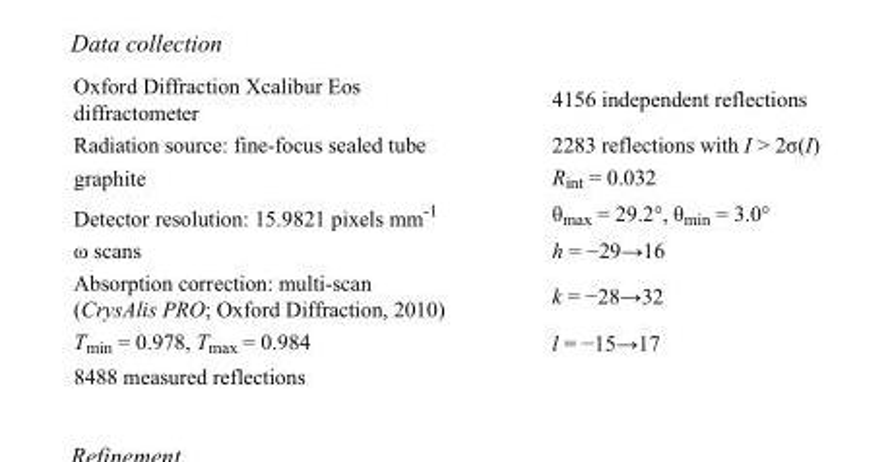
<table><tbody><tr><td>Oxford Diffraction Xcalibur Eos diffractometer</td><td>4156 independent reflections</td></tr><tr><td>Radiation source: fine-focus sealed tube</td><td>2283 reflections with I &gt; 2σ(I)</td></tr><tr><td>graphite</td><td>R<sub>int</sub> = 0.032</td></tr><tr><td>Detector resolution: 15.9821 pixels mm<sup>-1</sup></td><td>θ<sub>max</sub> = 29.2°, θ<sub>min</sub> = 3.0°</td></tr><tr><td>ω scans</td><td>h = −29→16</td></tr><tr><td>Absorption correction: multi-scan (CrysAlis PRO; Oxford Diffraction, 2010)</td><td>k = −28→32</td></tr><tr><td>T<sub>min</sub> = 0.978, T<sub>max</sub> = 0.984</td><td>l = −15→17</td></tr><tr><td>8488 measured reflections</td><td></td></tr></tbody></table>